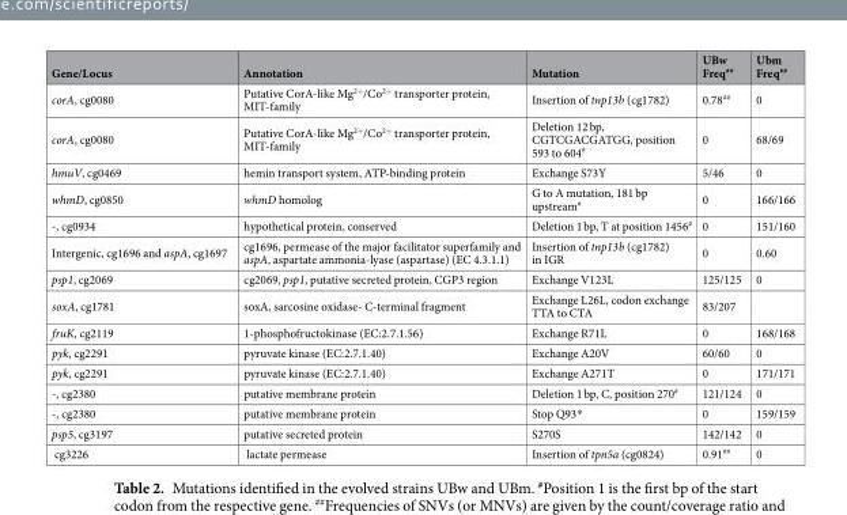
<table><thead><tr><td>Gene/Locus</td><td>Annotation</td><td>Mutation</td><td>UBw Freq<sup>##</sup></td><td>Ubm Freq<sup>##</sup></td></tr></thead><tbody><tr><td>corA, cg0080</td><td>Putative CorA-like Mg<sup>2+</sup>/Co<sup>2+</sup> transporter protein, MIT-family</td><td>Insertion of tnp13b (cg1782)</td><td>0.78<sup>##</sup></td><td>0</td></tr><tr><td>corA, cg0080</td><td>Putative CorA-like Mg<sup>2+</sup>/Co<sup>2+</sup> transporter protein, MIT-family</td><td>Deletion 12 bp, CGTCGACGATGG, position 593 to 604<sup>#</sup></td><td>0</td><td>68/69</td></tr><tr><td>hmuV, cg0469</td><td>hemin transport system, ATP-binding protein</td><td>Exchange S73Y</td><td>5/46</td><td>0</td></tr><tr><td>whmD, cg0850</td><td>whmD homolog</td><td>G to A mutation, 181 bp upstream<sup>#</sup></td><td>0</td><td>166/166</td></tr><tr><td>-, cg0934</td><td>hypothetical protein, conserved</td><td>Deletion 1 bp, T at position 1456<sup>#</sup></td><td>0</td><td>151/160</td></tr><tr><td>Intergenic, cg1696 and aspA, cg1697</td><td>cg1696, permease of the major facilitator superfamily and aspA, aspartate ammonia-lyase (aspartase) (EC 4.3.1.1)</td><td>Insertion of tnp13b (cg1782) in IGR</td><td>0</td><td>0.60</td></tr><tr><td>psp1, cg2069</td><td>cg2069, psp1, putative secreted protein, CGP3 region</td><td>Exchange V123L</td><td>125/125</td><td>0</td></tr><tr><td>soxA, cg1781</td><td>soxA, sarcosine oxidase- C-terminal fragment</td><td>Exchange L26L, codon exchange TTA to CTA</td><td>83/207</td><td></td></tr><tr><td>fruK, cg2119</td><td>1-phosphofructokinase (EC:2.7.1.56)</td><td>Exchange R71L</td><td>0</td><td>168/168</td></tr><tr><td>pyk, cg2291</td><td>pyruvate kinase (EC:2.7.1.40)</td><td>Exchange A20V</td><td>60/60</td><td>0</td></tr><tr><td>pyk, cg2291</td><td>pyruvate kinase (EC:2.7.1.40)</td><td>Exchange A271T</td><td>0</td><td>171/171</td></tr><tr><td>-, cg2380</td><td>putative membrane protein</td><td>Deletion 1 bp, C, position 270<sup>#</sup></td><td>121/124</td><td>0</td></tr><tr><td>-, cg2380</td><td>putative membrane protein</td><td>Stop Q93*</td><td>0</td><td>159/159</td></tr><tr><td>psp5, cg3197</td><td>putative secreted protein</td><td>S270S</td><td>142/142</td><td>0</td></tr><tr><td>cg3226</td><td>lactate permease</td><td>Insertion of tpn5a (cg0824)</td><td>0.91<sup>##</sup></td><td>0</td></tr></tbody></table>